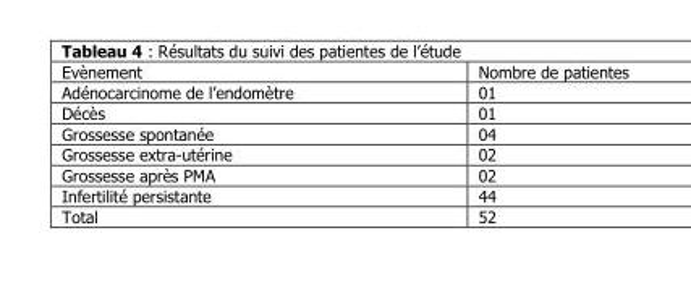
<table><thead><tr><td>Evènement</td><td>Nombre de patientes</td></tr></thead><tbody><tr><td>Adénocarcinome de l’endomètre</td><td>01</td></tr><tr><td>Décès</td><td>01</td></tr><tr><td>Grossesse spontanée</td><td>04</td></tr><tr><td>Grossesse extra-utérine</td><td>02</td></tr><tr><td>Grossesse après PMA</td><td>02</td></tr><tr><td>Infertilité persistante</td><td>44</td></tr><tr><td>Total</td><td>52</td></tr></tbody></table>